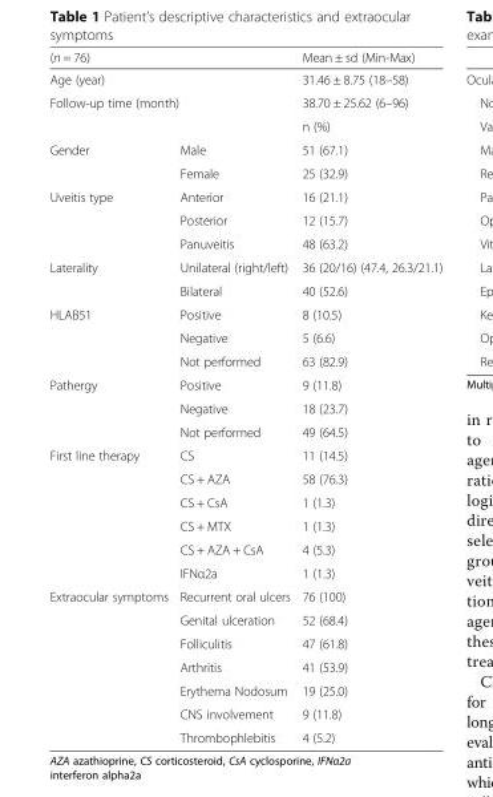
<table><thead><tr><td colspan="2">(n = 76)</td><td>Mean ± sd (Min-Max)</td></tr></thead><tbody><tr><td colspan="2">Age (year)</td><td>31.46 ± 8.75 (18–58)</td></tr><tr><td rowspan="2" colspan="2">Follow-up time (month)</td><td>38.70 ± 25.62 (6–96)</td></tr><tr><td>n (%)</td></tr><tr><td rowspan="2">Gender</td><td>Male</td><td>51 (67.1)</td></tr><tr><td>Female</td><td>25 (32.9)</td></tr><tr><td rowspan="3">Uveitis type</td><td>Anterior</td><td>16 (21.1)</td></tr><tr><td>Posterior</td><td>12 (15.7)</td></tr><tr><td>Panuveitis</td><td>48 (63.2)</td></tr><tr><td rowspan="2">Laterality</td><td>Unilateral (right/left)</td><td>36 (20/16) (47.4, 26.3/21.1)</td></tr><tr><td>Bilateral</td><td>40 (52.6)</td></tr><tr><td rowspan="3">HLAB51</td><td>Positive</td><td>8 (10.5)</td></tr><tr><td>Negative</td><td>5 (6.6)</td></tr><tr><td>Not performed</td><td>63 (82.9)</td></tr><tr><td rowspan="3">Pathergy</td><td>Positive</td><td>9 (11.8)</td></tr><tr><td>Negative</td><td>18 (23.7)</td></tr><tr><td>Not performed</td><td>49 (64.5)</td></tr><tr><td rowspan="6">First line therapy</td><td>CS</td><td>11 (14.5)</td></tr><tr><td>CS + AZA</td><td>58 (76.3)</td></tr><tr><td>CS + CsA</td><td>1 (1.3)</td></tr><tr><td>CS + MTX</td><td>1 (1.3)</td></tr><tr><td>CS + AZA + CsA</td><td>4 (5.3)</td></tr><tr><td>IFNα2a</td><td>1 (1.3)</td></tr><tr><td rowspan="7">Extraocular symptoms</td><td>Recurrent oral ulcers</td><td>76 (100)</td></tr><tr><td>Genital ulceration</td><td>52 (68.4)</td></tr><tr><td>Folliculitis</td><td>47 (61.8)</td></tr><tr><td>Arthritis</td><td>41 (53.9)</td></tr><tr><td>Erythema Nodosum</td><td>19 (25.0)</td></tr><tr><td>CNS involvement</td><td>9 (11.8)</td></tr><tr><td>Thrombophlebitis</td><td>4 (5.2)</td></tr></tbody></table>